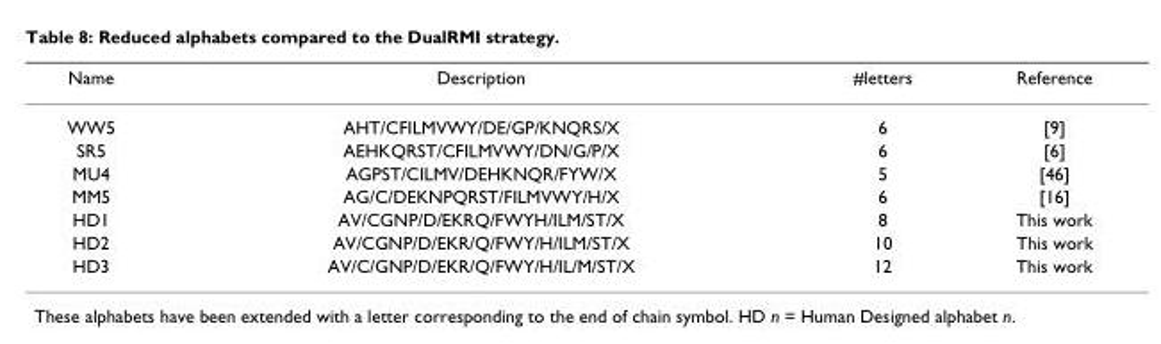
<table><thead><tr><td>Name</td><td>Description</td><td>#letters</td><td>Reference</td></tr></thead><tbody><tr><td>WW5</td><td>AHT/CFILMVWY/DE/GP/KNQRS/X</td><td>6</td><td>[9]</td></tr><tr><td>SR5</td><td>AEHKQRST/CFILMVWY/DN/G/P/X</td><td>6</td><td>[6]</td></tr><tr><td>MU4</td><td>AGPST/CILMV/DEHKNQR/FYW/X</td><td>5</td><td>[46]</td></tr><tr><td>MM5</td><td>AG/C/DEKNPQRST/FILMVWY/H/X</td><td>6</td><td>[16]</td></tr><tr><td>HD1</td><td>AV/CGNP/D/EKRQ/FWYH/ILM/ST/X</td><td>8</td><td>This work</td></tr><tr><td>HD2</td><td>AV/CGNP/D/EKR/Q/FWY/H/ILM/ST/X</td><td>10</td><td>This work</td></tr><tr><td>HD3</td><td>AV/C/GNP/D/EKR/Q/FWY/H/IL/M/ST/X</td><td>12</td><td>This work</td></tr></tbody></table>